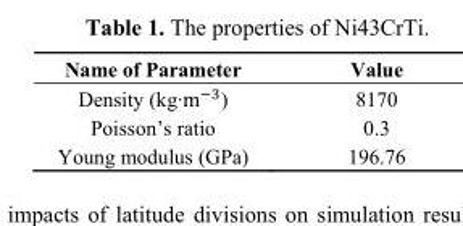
<table><thead><tr><td>Name of Parameter</td><td>Value</td></tr></thead><tbody><tr><td>Density (kg·m<sup>−3</sup>)</td><td>8170</td></tr><tr><td>Poisson’s ratio</td><td>0.3</td></tr><tr><td>Young modulus (GPa)</td><td>196.76</td></tr></tbody></table>